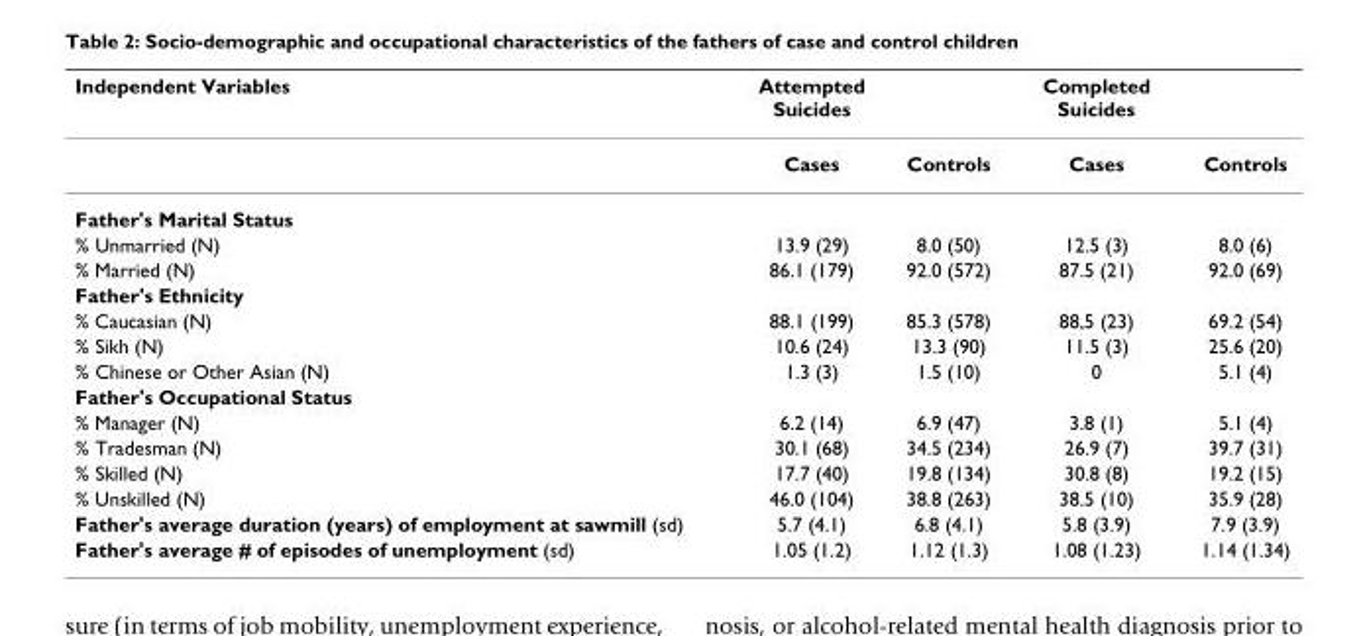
<table><thead><tr><td>Independent Variables</td><td>Attempted Suicides</td><td></td><td>Completed Suicides</td><td></td></tr></thead><tbody><tr><td></td><td>Cases</td><td>Controls</td><td>Cases</td><td>Controls</td></tr><tr><td colspan="5">Father&#x27;s Marital Status</td></tr><tr><td>% Unmarried (N)</td><td>13.9 (29)</td><td>8.0 (50)</td><td>12.5 (3)</td><td>8.0 (6)</td></tr><tr><td>% Married (N)</td><td>86.1 (179)</td><td>92.0 (572)</td><td>87.5 (21)</td><td>92.0 (69)</td></tr><tr><td colspan="5">Father&#x27;s Ethnicity</td></tr><tr><td>% Caucasian (N)</td><td>88.1 (199)</td><td>85.3 (578)</td><td>88,5 (23)</td><td>69.2 (54)</td></tr><tr><td>% Sikh (N)</td><td>10.6 (24)</td><td>13.3 (90)</td><td>11.5 (3)</td><td>25.6 (20)</td></tr><tr><td>% Chinese or Other Asian (N)</td><td>1.3 (3)</td><td>1.5 (10)</td><td>0</td><td>5.1 (4)</td></tr><tr><td colspan="5">Father&#x27;s Occupational Status</td></tr><tr><td>% Manager (N)</td><td>6.2 (14)</td><td>6.9 (47)</td><td>3.8 (1)</td><td>5.1 (4)</td></tr><tr><td>% Tradesman (N)</td><td>30.1 (68)</td><td>34.5 (234)</td><td>26.9 (7)</td><td>39.7 (31)</td></tr><tr><td>% Skilled (N)</td><td>17.7 (40)</td><td>19.8 (134)</td><td>30.8 (8)</td><td>19.2 (15)</td></tr><tr><td>% Unskilled (N)</td><td>46.0 (104)</td><td>38.8 (263)</td><td>38.5 (10)</td><td>35.9 (28)</td></tr><tr><td>Father&#x27;s average duration (years) of employment at sawmill (sd)</td><td>5.7 (4.1)</td><td>6.8 (4.1)</td><td>5.8 (3.9)</td><td>7.9 (3.9)</td></tr><tr><td>Father&#x27;s average # of episodes of unemployment (sd)</td><td>1.05 (1.2)</td><td>1.12 (1.3)</td><td>1.08 (1.23)</td><td>1.14 (1.34)</td></tr></tbody></table>